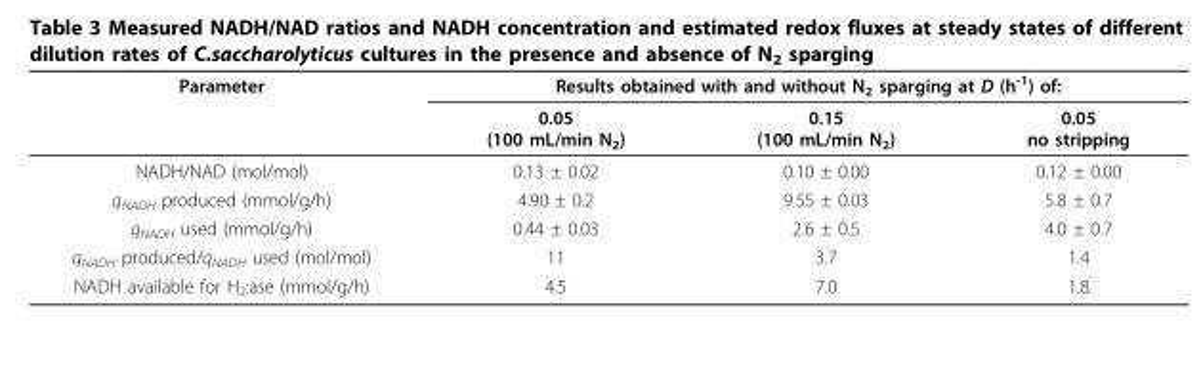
<table><thead><tr><td rowspan="2">Parameter</td><td colspan="3">Results obtained with and without N<sub>2</sub> sparging at D (h<sup>-1</sup>) of:</td></tr><tr><td>0.05 (100 mL/min N<sub>2</sub>)</td><td>0.15 (100 mL/min N<sub>2</sub>)</td><td>0.05 no stripping</td></tr></thead><tbody><tr><td>NADH/NAD (mol/mol)</td><td>0.13 ± 0.02</td><td>0.10 ± 0.00</td><td>0.12 ± 0.00</td></tr><tr><td>q<sub>NADH</sub> produced (mmol/g/h)</td><td>4.90 ± 0.2</td><td>9.55 ± 0.03</td><td>5.8 ± 0.7</td></tr><tr><td>q<sub>NADH</sub> used (mmol/g/h)</td><td>0.44 ± 0.03</td><td>2.6 ± 0.5</td><td>4.0 ± 0.7</td></tr><tr><td>q<sub>NADH</sub> produced/q<sub>NADH</sub> used (mol/mol)</td><td>11</td><td>3.7</td><td>1.4</td></tr><tr><td>NADH available for H<sub>2</sub>:ase (mmol/g/h)</td><td>4.5</td><td>7.0</td><td>1.8</td></tr></tbody></table>